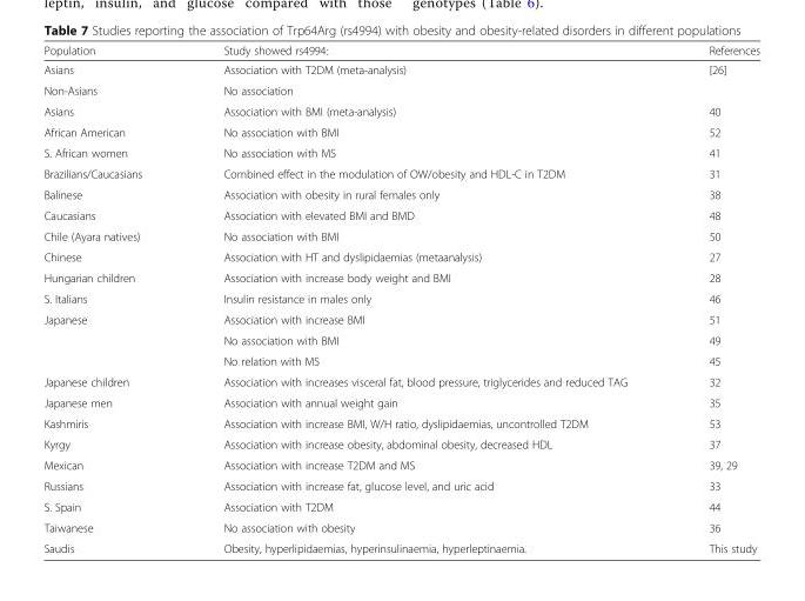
<table><thead><tr><td>Population</td><td>Study showed rs4994:</td><td>References</td></tr></thead><tbody><tr><td>Asians</td><td>Association with T2DM (meta-analysis)</td><td rowspan="2">[26]</td></tr><tr><td>Non-Asians</td><td>No association</td></tr><tr><td>Asians</td><td>Association with BMI (meta-analysis)</td><td>40</td></tr><tr><td>African American</td><td>No association with BMI</td><td>52</td></tr><tr><td>S. African women</td><td>No association with MS</td><td>41</td></tr><tr><td>Brazilians/Caucasians</td><td>Combined effect in the modulation of OW/obesity and HDL-C in T2DM</td><td>31</td></tr><tr><td>Balinese</td><td>Association with obesity in rural females only</td><td>38</td></tr><tr><td>Caucasians</td><td>Association with elevated BMI and BMD</td><td>48</td></tr><tr><td>Chile (Ayara natives)</td><td>No association with BMI</td><td>50</td></tr><tr><td>Chinese</td><td>Association with HT and dyslipidaemias (metaanalysis)</td><td>27</td></tr><tr><td>Hungarian children</td><td>Association with increase body weight and BMI</td><td>28</td></tr><tr><td>S. Italians</td><td>Insulin resistance in males only</td><td>46</td></tr><tr><td rowspan="3">Japanese</td><td>Association with increase BMI</td><td>51</td></tr><tr><td>No association with BMI</td><td>49</td></tr><tr><td>No relation with MS</td><td>45</td></tr><tr><td>Japanese children</td><td>Association with increases visceral fat, blood pressure, triglycerides and reduced TAG</td><td>32</td></tr><tr><td>Japanese men</td><td>Association with annual weight gain</td><td>35</td></tr><tr><td>Kashmiris</td><td>Association with increase BMI, W/H ratio, dyslipidaemias, uncontrolled T2DM</td><td>53</td></tr><tr><td>Kyrgy</td><td>Association with increase obesity, abdominal obesity, decreased HDL</td><td>37</td></tr><tr><td>Mexican</td><td>Association with increase T2DM and MS</td><td>39, 29</td></tr><tr><td>Russians</td><td>Association with increase fat, glucose level, and uric acid</td><td>33</td></tr><tr><td>S. Spain</td><td>Association with T2DM</td><td>44</td></tr><tr><td>Taiwanese</td><td>No association with obesity</td><td>36</td></tr><tr><td>Saudis</td><td>Obesity, hyperlipidaemias, hyperinsulinaemia, hyperleptinaemia.</td><td>This study</td></tr></tbody></table>